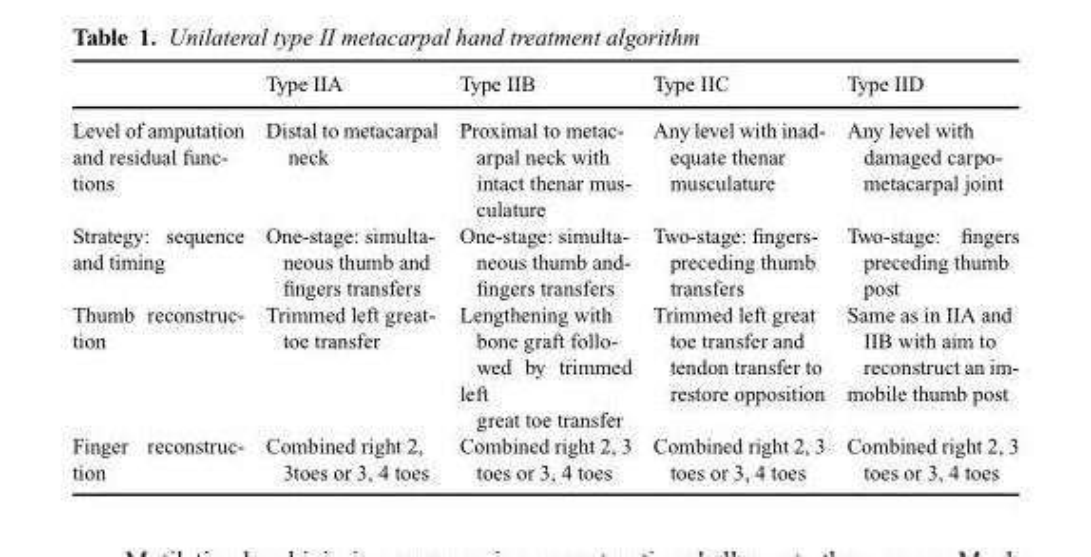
<table><thead><tr><td></td><td>Type IIA</td><td>Type IIB</td><td>Type IIC</td><td>Type IID</td></tr></thead><tbody><tr><td>Level of amputation and residual func- tions</td><td>Distal to metacarpal neck</td><td>Proximal to metac- arpal neck with intact thenar mus- culature</td><td>Any level with inad- equate thenar musculature</td><td>Any level with damaged carpo- metacarpal joint</td></tr><tr><td>Strategy: sequence and timing</td><td>One-stage: simulta- neous thumb and fingers transfers</td><td>One-stage: simulta- neous thumb and- fingers transfers</td><td>Two-stage: fingers- preceding thumb transfers</td><td>Two-stage: fingers preceding thumb post</td></tr><tr><td>Thumb reconstruc- tion</td><td>Trimmed left great- toe transfer</td><td>Lengthening with bone graft follo- wed by trimmed left great toe transfer</td><td>Trimmed left great toe transfer and tendon transfer to restore opposition</td><td>Same as in IIA and IIB with aim to reconstruct an im- mobile thumb post</td></tr><tr><td>Finger reconstruc- tion</td><td>Combined right 2, 3toes or 3, 4 toes</td><td>Combined right 2, 3 toes or 3, 4 toes</td><td>Combined right 2, 3 toes or 3, 4 toes</td><td>Combined right 2, 3 toes or 3, 4 toes</td></tr></tbody></table>